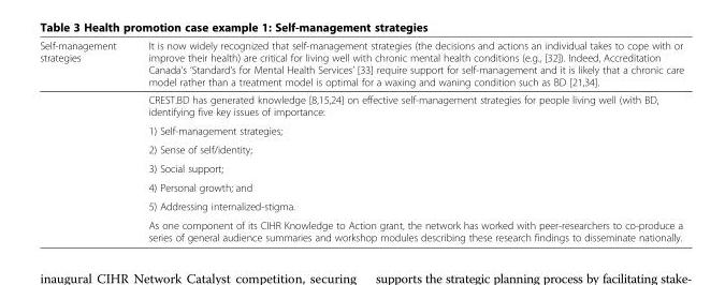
<table><thead><tr><td>Self-management strategies</td><td>It is now widely recognized that self-management strategies (the decisions and actions an individual takes to cope with or improve their health) are critical for living well with chronic mental health conditions (e.g., [32]). Indeed, Accreditation Canada’s ‘Standard’s for Mental Health Services’ [33] require support for self-management and it is likely that a chronic care model rather than a treatment model is optimal for a waxing and waning condition such as BD [21,34].</td></tr></thead><tbody><tr><td></td><td>CREST.BD has generated knowledge [8,15,24] on effective self-management strategies for people living well (with BD, identifying five key issues of importance:</td></tr><tr><td></td><td>1) Self-management strategies;</td></tr><tr><td></td><td>2) Sense of self/identity;</td></tr><tr><td></td><td>3) Social support;</td></tr><tr><td></td><td>4) Personal growth; and</td></tr><tr><td></td><td>5) Addressing internalized-stigma.</td></tr><tr><td></td><td>As one component of its CIHR Knowledge to Action grant, the network has worked with peer-researchers to co-produce a series of general audience summaries and workshop modules describing these research findings to disseminate nationally.</td></tr></tbody></table>